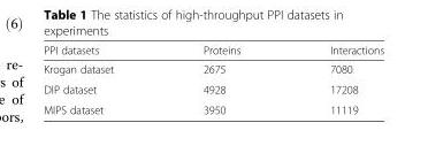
<table><thead><tr><td>PPI datasets</td><td>Proteins</td><td>Interactions</td></tr></thead><tbody><tr><td>Krogan dataset</td><td>2675</td><td>7080</td></tr><tr><td>DIP dataset</td><td>4928</td><td>17208</td></tr><tr><td>MIPS dataset</td><td>3950</td><td>11119</td></tr></tbody></table>